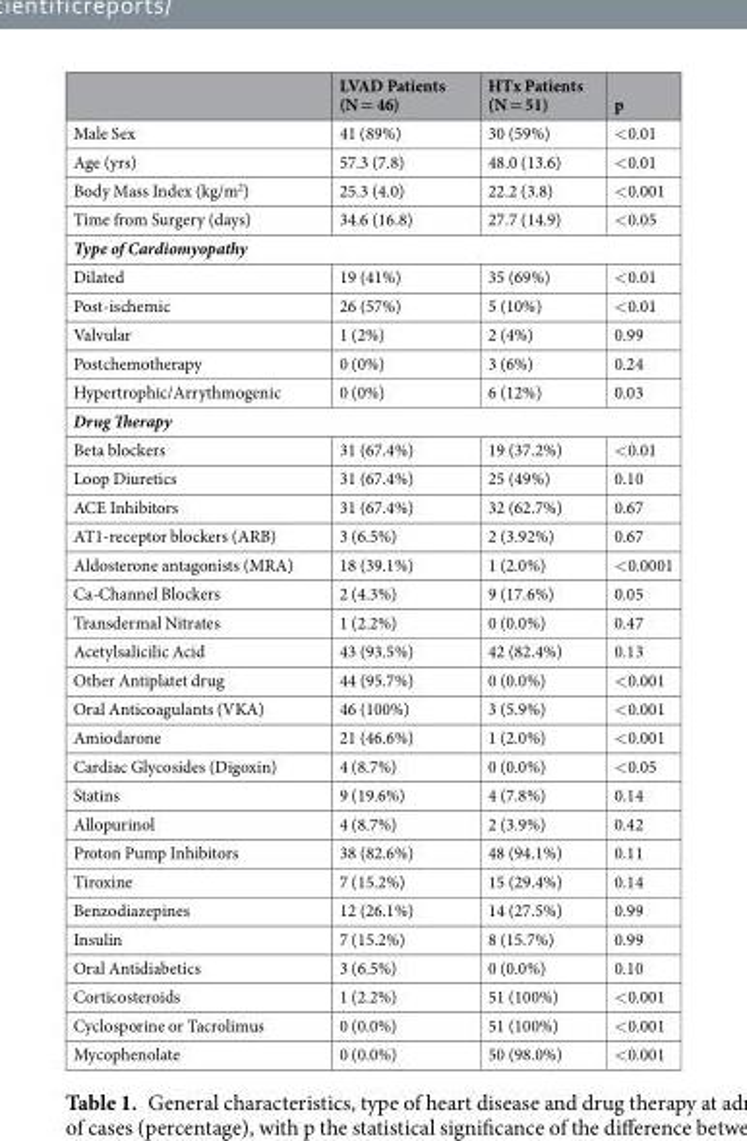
<table><thead><tr><td></td><td>LVAD Patients (N = 46)</td><td>HTx Patients (N = 51)</td><td>p</td></tr></thead><tbody><tr><td>Male Sex</td><td>41 (89%)</td><td>30 (59%)</td><td>&lt;0.01</td></tr><tr><td>Age (yrs)</td><td>57.3 (7.8)</td><td>48.0 (13.6)</td><td>&lt;0.01</td></tr><tr><td>Body Mass Index (kg/m<sup>2</sup>)</td><td>25.3 (4.0)</td><td>22.2 (3.8)</td><td>&lt;0.001</td></tr><tr><td>Time from Surgery (days)</td><td>34.6 (16.8)</td><td>27.7 (14.9)</td><td>&lt;0.05</td></tr><tr><td colspan="4">Type of Cardiomyopathy</td></tr><tr><td>Dilated</td><td>19 (41%)</td><td>35 (69%)</td><td>&lt;0.01</td></tr><tr><td>Post-ischemic</td><td>26 (57%)</td><td>5 (10%)</td><td>&lt;0.01</td></tr><tr><td>Valvular</td><td>1 (2%)</td><td>2 (4%)</td><td>0.99</td></tr><tr><td>Postchemotherapy</td><td>0 (0%)</td><td>3 (6%)</td><td>0.24</td></tr><tr><td>Hypertrophic/Arrythmogenic</td><td>0 (0%)</td><td>6 (12%)</td><td>0.03</td></tr><tr><td colspan="4">Drug Therapy</td></tr><tr><td>Beta blockers</td><td>31 (67.4%)</td><td>19 (37.2%)</td><td>&lt;0.01</td></tr><tr><td>Loop Diuretics</td><td>31 (67.4%)</td><td>25 (49%)</td><td>0.10</td></tr><tr><td>ACE Inhibitors</td><td>31 (67.4%)</td><td>32 (62.7%)</td><td>0.67</td></tr><tr><td>AT1-receptor blockers (ARB)</td><td>3 (6.5%)</td><td>2 (3.92%)</td><td>0.67</td></tr><tr><td>Aldosterone antagonists (MRA)</td><td>18 (39.1%)</td><td>1 (2.0%)</td><td>&lt;0.0001</td></tr><tr><td>Ca-Channel Blockers</td><td>2 (4.3%)</td><td>9 (17.6%)</td><td>0.05</td></tr><tr><td>Transdermal Nitrates</td><td>1 (2.2%)</td><td>0 (0.0%)</td><td>0.47</td></tr><tr><td>Acetylsalicilic Acid</td><td>43 (93.5%)</td><td>42 (82.4%)</td><td>0.13</td></tr><tr><td>Other Antiplatet drug</td><td>44 (95.7%)</td><td>0 (0.0%)</td><td>&lt;0.001</td></tr><tr><td>Oral Anticoagulants (VKA)</td><td>46 (100%)</td><td>3 (5.9%)</td><td>&lt;0.001</td></tr><tr><td>Amiodarone</td><td>21 (46.6%)</td><td>1 (2.0%)</td><td>&lt;0.001</td></tr><tr><td>Cardiac Glycosides (Digoxin)</td><td>4 (8.7%)</td><td>0 (0.0%)</td><td>&lt;0.05</td></tr><tr><td>Statins</td><td>9 (19.6%)</td><td>4 (7.8%)</td><td>0.14</td></tr><tr><td>Allopurinol</td><td>4 (8.7%)</td><td>2 (3.9%)</td><td>0.42</td></tr><tr><td>Proton Pump Inhibitors</td><td>38 (82.6%)</td><td>48 (94.1%)</td><td>0.11</td></tr><tr><td>Tiroxine</td><td>7 (15.2%)</td><td>15 (29.4%)</td><td>0.14</td></tr><tr><td>Benzodiazepines</td><td>12 (26.1%)</td><td>14 (27.5%)</td><td>0.99</td></tr><tr><td>Insulin</td><td>7 (15.2%)</td><td>8 (15.7%)</td><td>0.99</td></tr><tr><td>Oral Antidiabetics</td><td>3 (6.5%)</td><td>0 (0.0%)</td><td>0.10</td></tr><tr><td>Corticosteroids</td><td>1 (2.2%)</td><td>51 (100%)</td><td>&lt;0.001</td></tr><tr><td>Cyclosporine or Tacrolimus</td><td>0 (0.0%)</td><td>51 (100%)</td><td>&lt;0.001</td></tr><tr><td>Mycophenolate</td><td>0 (0.0%)</td><td>50 (98.0%)</td><td>&lt;0.001</td></tr></tbody></table>